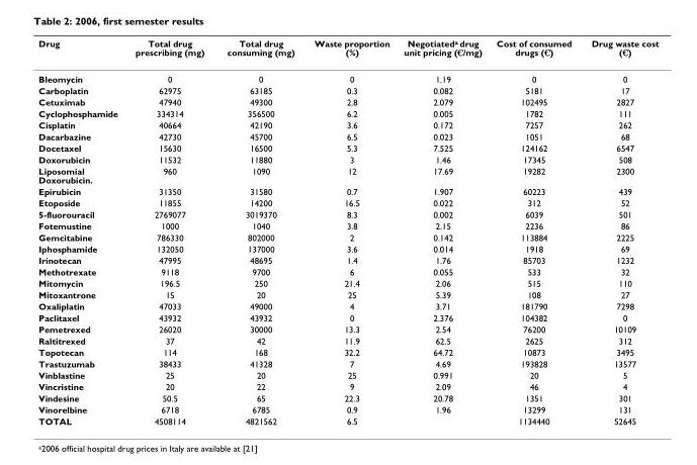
<table><thead><tr><td>Drug</td><td>Total drug prescribing (mg)</td><td>Total drug consuming (mg)</td><td>Waste proportion (%)</td><td>Negotiated<sup>a</sup> drug unit pricing (€/mg)</td><td>Cost of consumed drugs (€)</td><td>Drug waste cost (€)</td></tr></thead><tbody><tr><td>Bleomycin</td><td>0</td><td>0</td><td>0</td><td>1.19</td><td>0</td><td>0</td></tr><tr><td>Carboplatin</td><td>62975</td><td>63185</td><td>0.3</td><td>0.082</td><td>5181</td><td>17</td></tr><tr><td>Cetuximab</td><td>47940</td><td>49300</td><td>2.8</td><td>2.079</td><td>102495</td><td>2827</td></tr><tr><td>Cyclophosphamide</td><td>334314</td><td>356500</td><td>6.2</td><td>0.005</td><td>1782</td><td>111</td></tr><tr><td>Cisplatin</td><td>40664</td><td>42190</td><td>3.6</td><td>0.172</td><td>7257</td><td>262</td></tr><tr><td>Dacarbazine</td><td>42730</td><td>45700</td><td>6.5</td><td>0.023</td><td>1051</td><td>68</td></tr><tr><td>Docetaxel</td><td>15630</td><td>16500</td><td>5.3</td><td>7.525</td><td>124162</td><td>6547</td></tr><tr><td>Doxorubicin</td><td>11532</td><td>11880</td><td>3</td><td>1.46</td><td>17345</td><td>508</td></tr><tr><td>Liposomial Doxorubicin.</td><td>960</td><td>1090</td><td>12</td><td>17.69</td><td>19282</td><td>2300</td></tr><tr><td>Epirubicin</td><td>31350</td><td>31580</td><td>0.7</td><td>1.907</td><td>60223</td><td>439</td></tr><tr><td>Etoposide</td><td>11855</td><td>14200</td><td>16.5</td><td>0.022</td><td>312</td><td>52</td></tr><tr><td>5-fluorouracil</td><td>2769077</td><td>3019370</td><td>8.3</td><td>0.002</td><td>6039</td><td>501</td></tr><tr><td>Fotemustine</td><td>1000</td><td>1040</td><td>3.8</td><td>2.15</td><td>2236</td><td>86</td></tr><tr><td>Gemcitabine</td><td>786330</td><td>802000</td><td>2</td><td>0.142</td><td>113884</td><td>2225</td></tr><tr><td>Iphosphamide</td><td>132050</td><td>137000</td><td>3.6</td><td>0.014</td><td>1918</td><td>69</td></tr><tr><td>Irinotecan</td><td>47995</td><td>48695</td><td>1.4</td><td>1.76</td><td>85703</td><td>1232</td></tr><tr><td>Methotrexate</td><td>9118</td><td>9700</td><td>6</td><td>0.055</td><td>533</td><td>32</td></tr><tr><td>Mitomycin</td><td>196.5</td><td>250</td><td>21.4</td><td>2.06</td><td>515</td><td>110</td></tr><tr><td>Mitoxantrone</td><td>15</td><td>20</td><td>25</td><td>5.39</td><td>108</td><td>27</td></tr><tr><td>Oxaliplatin</td><td>47033</td><td>49000</td><td>4</td><td>3.71</td><td>181790</td><td>7298</td></tr><tr><td>Paclitaxel</td><td>43932</td><td>43932</td><td>0</td><td>2.376</td><td>104382</td><td>0</td></tr><tr><td>Pemetrexed</td><td>26020</td><td>30000</td><td>13.3</td><td>2.54</td><td>76200</td><td>10109</td></tr><tr><td>Raltitrexed</td><td>37</td><td>42</td><td>11.9</td><td>62.5</td><td>2625</td><td>312</td></tr><tr><td>Topotecan</td><td>114</td><td>168</td><td>32.2</td><td>64.72</td><td>10873</td><td>3495</td></tr><tr><td>Trastuzumab</td><td>38433</td><td>41328</td><td>7</td><td>4.69</td><td>193828</td><td>13577</td></tr><tr><td>Vinblastine</td><td>25</td><td>20</td><td>25</td><td>0.991</td><td>20</td><td>5</td></tr><tr><td>Vincristine</td><td>20</td><td>22</td><td>9</td><td>2.09</td><td>46</td><td>4</td></tr><tr><td>Vindesine</td><td>50.5</td><td>65</td><td>22.3</td><td>20.78</td><td>1351</td><td>301</td></tr><tr><td>Vinorelbine</td><td>6718</td><td>6785</td><td>0.9</td><td>1.96</td><td>13299</td><td>131</td></tr><tr><td>TOTAL</td><td>4508114</td><td>4821562</td><td>6.5</td><td></td><td>1134440</td><td>52645</td></tr></tbody></table>